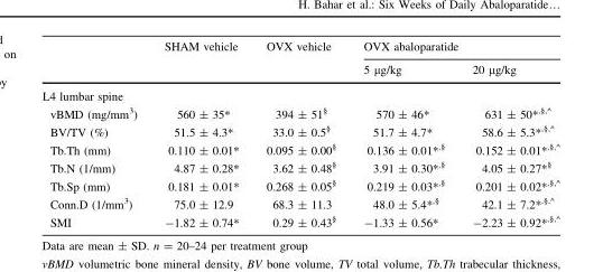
<table><thead><tr><td rowspan="2"></td><td rowspan="2">SHAM vehicle</td><td rowspan="2">OVX vehicle</td><td colspan="2">OVX abaloparatide</td></tr><tr><td>5 µg/kg</td><td>20 µg/kg</td></tr></thead><tbody><tr><td colspan="5">L4 lumbar spine</td></tr><tr><td>vBMD (mg/mm<sup>3</sup>)</td><td>560 ± 35*</td><td>394 ± 51<sup>§</sup></td><td>570 ± 46*</td><td>631 ± 50*,§,^</td></tr><tr><td>BV/TV (%)</td><td>51.5 ± 4.3*</td><td>33.0 ± 0.5<sup>§</sup></td><td>51.7 ± 4.7*</td><td>58.6 ± 5.3*,§,^</td></tr><tr><td>Tb.Th (mm)</td><td>0.110 ± 0.01*</td><td>0.095 ± 0.00<sup>§</sup></td><td>0.136 ± 0.01*<sup>,§</sup></td><td>0.152 ± 0.01*,§,^</td></tr><tr><td>Tb.N (1/mm)</td><td>4.87 ± 0.28*</td><td>3.62 ± 0.48<sup>§</sup></td><td>3.91 ± 0.30*<sup>,§</sup></td><td>4.05 ± 0.27*<sup>§</sup></td></tr><tr><td>Tb.Sp (mm)</td><td>0.181 ± 0.01*</td><td>0.268 ± 0.05<sup>§</sup></td><td>0.219 ± 0.03*<sup>,§</sup></td><td>0.201 ± 0.02*,§,^</td></tr><tr><td>Conn.D (1/mm<sup>3</sup>)</td><td>75.0 ± 12.9</td><td>68.3 ± 11.3</td><td>48.0 ± 5.4*<sup>,§</sup></td><td>42.1 ± 7.2*,§,^</td></tr><tr><td>SMI</td><td>-1.82 ± 0.74*</td><td>0.29 ± 0.43<sup>§</sup></td><td>-1.33 ± 0.56*</td><td>-2.23 ± 0.92*,§,^</td></tr></tbody></table>